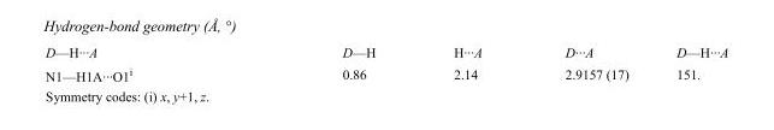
<table><tbody><tr><td>D—H···A</td><td>D—H</td><td>H···A</td><td>D···A</td><td>D—H···A</td></tr><tr><td>N1—H1A···O1<sup>i</sup></td><td>0.86</td><td>2.14</td><td>2.9157 (17)</td><td>151.</td></tr></tbody></table>